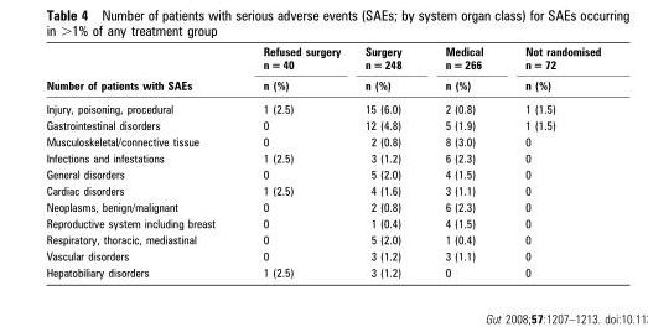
<table><thead><tr><td rowspan="2">Number of patients with SAEs</td><td rowspan="2">Refused surgery n = 40 n (%)</td><td rowspan="2">Surgery n = 248 n (%)</td><td rowspan="2">Medical n = 266 n (%)</td><td rowspan="2">Not randomised n = 72 n (%)</td></tr><tr></tr></thead><tbody><tr><td>Injury, poisoning, procedural</td><td>1 (2.5)</td><td>15 (6.0)</td><td>2 (0.8)</td><td>1 (1.5)</td></tr><tr><td>Gastrointestinal disorders</td><td>0</td><td>12 (4.8)</td><td>5 (1.9)</td><td>1 (1.5)</td></tr><tr><td>Musculoskeletal/connective tissue</td><td>0</td><td>2 (0.8)</td><td>8 (3.0)</td><td>0</td></tr><tr><td>Infections and infestations</td><td>1 (2.5)</td><td>3 (1.2)</td><td>6 (2.3)</td><td>0</td></tr><tr><td>General disorders</td><td>0</td><td>5 (2.0)</td><td>4 (1.5)</td><td>0</td></tr><tr><td>Cardiac disorders</td><td>1 (2.5)</td><td>4 (1.6)</td><td>3 (1.1)</td><td>0</td></tr><tr><td>Neoplasms, benign/malignant</td><td>0</td><td>2 (0.8)</td><td>6 (2.3)</td><td>0</td></tr><tr><td>Reproductive system including breast</td><td>0</td><td>1 (0.4)</td><td>4 (1.5)</td><td>0</td></tr><tr><td>Respiratory, thoracic, mediastinal</td><td>0</td><td>5 (2.0)</td><td>1 (0.4)</td><td>0</td></tr><tr><td>Vascular disorders</td><td>0</td><td>3 (1.2)</td><td>3 (1.1)</td><td>0</td></tr><tr><td>Hepatobiliary disorders</td><td>1 (2.5)</td><td>3 (1.2)</td><td>0</td><td>0</td></tr></tbody></table>